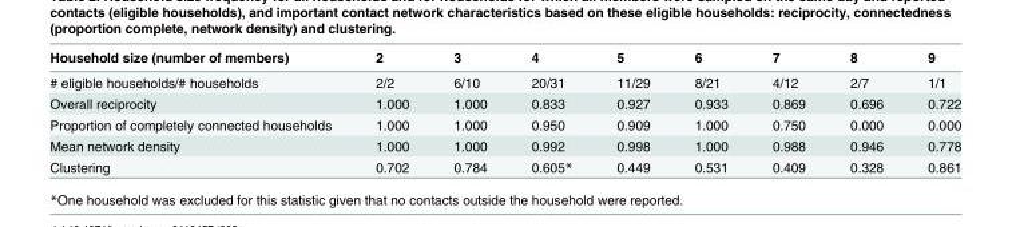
<table><thead><tr><td>Household size (number of members)</td><td>2</td><td>3</td><td>4</td><td>5</td><td>6</td><td>7</td><td>8</td><td>9</td></tr></thead><tbody><tr><td># eligible households/# households</td><td>2/2</td><td>6/10</td><td>20/31</td><td>11/29</td><td>8/21</td><td>4/12</td><td>2/7</td><td>1/1</td></tr><tr><td>Overall reciprocity</td><td>1.000</td><td>1.000</td><td>0.833</td><td>0.927</td><td>0.933</td><td>0.869</td><td>0.696</td><td>0.722</td></tr><tr><td>Proportion of completely connected households</td><td>1.000</td><td>1.000</td><td>0.950</td><td>0.909</td><td>1.000</td><td>0.750</td><td>0.000</td><td>0.000</td></tr><tr><td>Mean network density</td><td>1.000</td><td>1.000</td><td>0.992</td><td>0.998</td><td>1.000</td><td>0.988</td><td>0.946</td><td>0.778</td></tr><tr><td>Clustering</td><td>0.702</td><td>0.784</td><td>0.605*</td><td>0.449</td><td>0.531</td><td>0.409</td><td>0.328</td><td>0.861</td></tr></tbody></table>